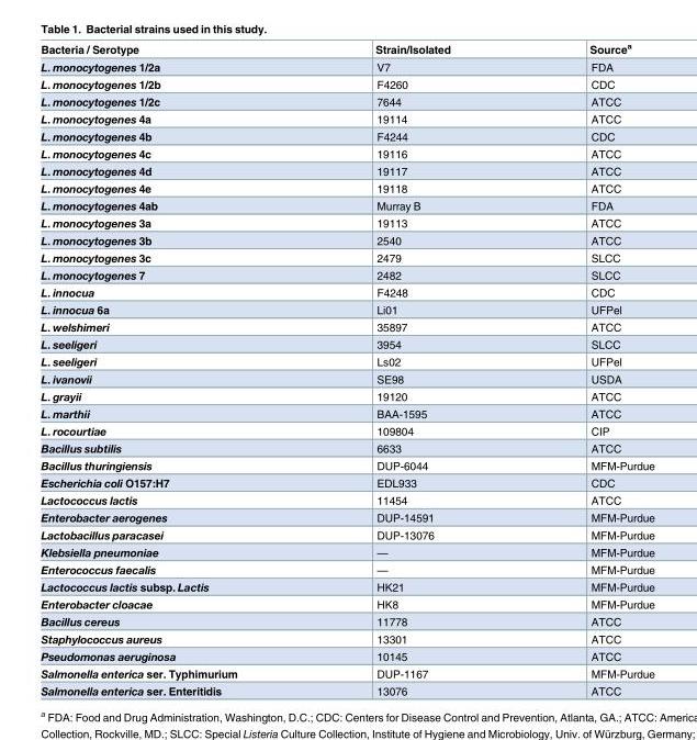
<table><thead><tr><td>Bacteria / Serotype</td><td>Strain/Isolated</td><td>Source<sup>a</sup></td></tr></thead><tbody><tr><td>L. monocytogenes 1/2a</td><td>V7</td><td>FDA</td></tr><tr><td>L. monocytogenes 1/2b</td><td>F4260</td><td>CDC</td></tr><tr><td>L. monocytogenes 1/2c</td><td>7644</td><td>ATCC</td></tr><tr><td>L. monocytogenes 4a</td><td>19114</td><td>ATCC</td></tr><tr><td>L. monocytogenes 4b</td><td>F4244</td><td>CDC</td></tr><tr><td>L. monocytogenes 4c</td><td>19116</td><td>ATCC</td></tr><tr><td>L. monocytogenes 4d</td><td>19117</td><td>ATCC</td></tr><tr><td>L. monocytogenes 4e</td><td>19118</td><td>ATCC</td></tr><tr><td>L. monocytogenes 4ab</td><td>Murray B</td><td>FDA</td></tr><tr><td>L. monocytogenes 3a</td><td>19113</td><td>ATCC</td></tr><tr><td>L. monocytogenes 3b</td><td>2540</td><td>ATCC</td></tr><tr><td>L. monocytogenes 3c</td><td>2479</td><td>SLCC</td></tr><tr><td>L. monocytogenes 7</td><td>2482</td><td>SLCC</td></tr><tr><td>L. innocua</td><td>F4248</td><td>CDC</td></tr><tr><td>L. innocua 6a</td><td>Li01</td><td>UFPel</td></tr><tr><td>L. welshimeri</td><td>35897</td><td>ATCC</td></tr><tr><td>L. seeligeri</td><td>3954</td><td>SLCC</td></tr><tr><td>L. seeligeri</td><td>Ls02</td><td>UFPel</td></tr><tr><td>L. ivanovii</td><td>SE98</td><td>USDA</td></tr><tr><td>L. grayii</td><td>19120</td><td>ATCC</td></tr><tr><td>L. marthii</td><td>BAA-1595</td><td>ATCC</td></tr><tr><td>L. rocourtiae</td><td>109804</td><td>CIP</td></tr><tr><td>Bacillus subtilis</td><td>6633</td><td>ATCC</td></tr><tr><td>Bacillus thuringiensis</td><td>DUP-6044</td><td>MFM-Purdue</td></tr><tr><td>Escherichia coli O157:H7</td><td>EDL933</td><td>CDC</td></tr><tr><td>Lactococcus lactis</td><td>11454</td><td>ATCC</td></tr><tr><td>Enterobacter aerogenes</td><td>DUP-14591</td><td>MFM-Purdue</td></tr><tr><td>Lactobacillus paracasei</td><td>DUP-13076</td><td>MFM-Purdue</td></tr><tr><td>Klebsiella pneumoniae</td><td>—</td><td>MFM-Purdue</td></tr><tr><td>Enterococcus faecalis</td><td>—</td><td>MFM-Purdue</td></tr><tr><td>Lactococcus lactis subsp. Lactis</td><td>HK21</td><td>MFM-Purdue</td></tr><tr><td>Enterobacter cloacae</td><td>HK8</td><td>MFM-Purdue</td></tr><tr><td>Bacillus cereus</td><td>11778</td><td>ATCC</td></tr><tr><td>Staphylococcus aureus</td><td>13301</td><td>ATCC</td></tr><tr><td>Pseudomonas aeruginosa</td><td>10145</td><td>ATCC</td></tr><tr><td>Salmonella enterica ser. Typhimurium</td><td>DUP-1167</td><td>MFM-Purdue</td></tr><tr><td>Salmonella enterica ser. Enteritidis</td><td>13076</td><td>ATCC</td></tr></tbody></table>